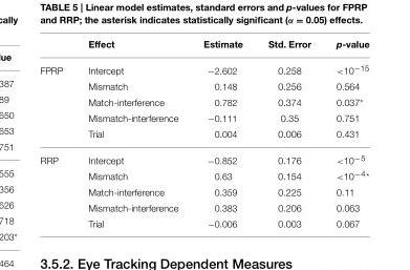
<table><thead><tr><td></td><td>Effect</td><td>Estimate</td><td>Std. Error</td><td>p-value</td></tr></thead><tbody><tr><td rowspan="5">FPRP</td><td>Intercept</td><td>−2.602</td><td>0.258</td><td>&lt;10<sup>−15</sup></td></tr><tr><td>Mismatch</td><td>0.148</td><td>0.256</td><td>0.564</td></tr><tr><td>Match-interference</td><td>0.782</td><td>0.374</td><td>0.037*</td></tr><tr><td>Mismatch-interference</td><td>−0.111</td><td>0.35</td><td>0.751</td></tr><tr><td>Trial</td><td>0.004</td><td>0.006</td><td>0.431</td></tr><tr><td rowspan="5">RRP</td><td>Intercept</td><td>−0.852</td><td>0.176</td><td>&lt;10<sup>−5</sup></td></tr><tr><td>Mismatch</td><td>0.63</td><td>0.154</td><td>&lt;10<sup>−4*</sup></td></tr><tr><td>Match-interference</td><td>0.359</td><td>0.225</td><td>0.11</td></tr><tr><td>Mismatch-interference</td><td>0.383</td><td>0.206</td><td>0.063</td></tr><tr><td>Trial</td><td>−0.006</td><td>0.003</td><td>0.067</td></tr></tbody></table>